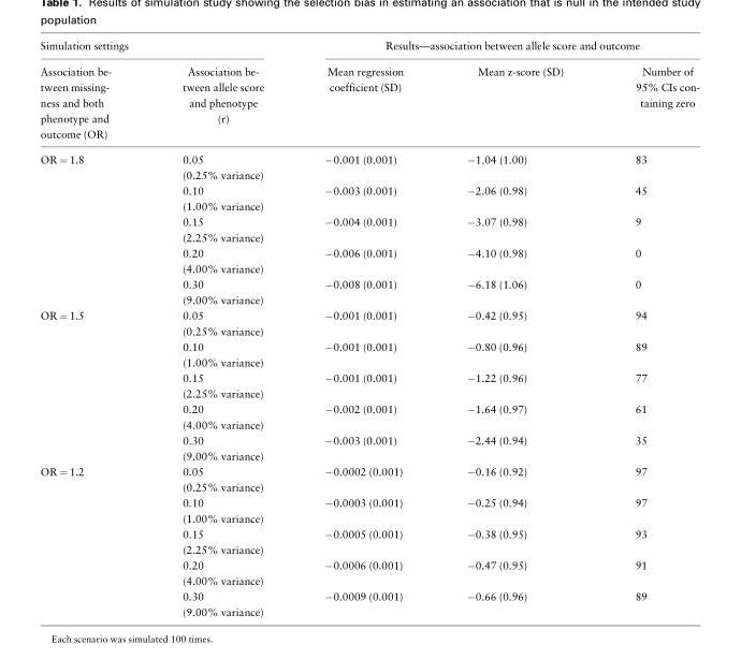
<table><thead><tr><td colspan="2">Simulation settings</td><td colspan="3">Results—association between allele score and outcome</td></tr><tr><td>Association be- tween missing- ness and both phenotype and outcome (OR)</td><td>Association be- tween allele score and phenotype (r)</td><td>Mean regression coefficient (SD)</td><td>Mean z-score (SD)</td><td>Number of 95% CIs con- taining zero</td></tr></thead><tbody><tr><td rowspan="10">OR = 1.8</td><td>0.05</td><td rowspan="2">−0.001 (0.001)</td><td rowspan="2">−1.04 (1.00)</td><td rowspan="2">83</td></tr><tr><td>(0.25% variance)</td></tr><tr><td>0.10</td><td rowspan="2">−0.003 (0.001)</td><td rowspan="2">−2.06 (0.98)</td><td rowspan="2">45</td></tr><tr><td>(1.00% variance)</td></tr><tr><td>0.15</td><td rowspan="2">−0.004 (0.001)</td><td rowspan="2">−3.07 (0.98)</td><td rowspan="2">9</td></tr><tr><td>(2.25% variance)</td></tr><tr><td>0.20</td><td rowspan="2">−0.006 (0.001)</td><td rowspan="2">−4.10 (0.98)</td><td rowspan="2">0</td></tr><tr><td>(4.00% variance)</td></tr><tr><td>0.30</td><td rowspan="2">−0.008 (0.001)</td><td rowspan="2">−6.18 (1.06)</td><td rowspan="2">0</td></tr><tr><td>(9.00% variance)</td></tr><tr><td rowspan="10">OR = 1.5</td><td>0.05</td><td rowspan="2">−0.001 (0.001)</td><td rowspan="2">−0.42 (0.95)</td><td rowspan="2">94</td></tr><tr><td>(0.25% variance)</td></tr><tr><td>0.10</td><td rowspan="2">−0.001 (0.001)</td><td rowspan="2">−0.80 (0.96)</td><td rowspan="2">89</td></tr><tr><td>(1.00% variance)</td></tr><tr><td>0.15</td><td rowspan="2">−0.001 (0.001)</td><td rowspan="2">−1.22 (0.96)</td><td rowspan="2">77</td></tr><tr><td>(2.25% variance)</td></tr><tr><td>0.20</td><td rowspan="2">−0.002 (0.001)</td><td rowspan="2">−1.64 (0.97)</td><td rowspan="2">61</td></tr><tr><td>(4.00% variance)</td></tr><tr><td>0.30</td><td rowspan="2">−0.003 (0.001)</td><td rowspan="2">−2.44 (0.94)</td><td rowspan="2">35</td></tr><tr><td>(9.00% variance)</td></tr><tr><td rowspan="10">OR = 1.2</td><td>0.05</td><td rowspan="2">−0.0002 (0.001)</td><td rowspan="2">−0.16 (0.92)</td><td rowspan="2">97</td></tr><tr><td>(0.25% variance)</td></tr><tr><td>0.10</td><td rowspan="2">−0.0003 (0.001)</td><td rowspan="2">−0.25 (0.94)</td><td rowspan="2">97</td></tr><tr><td>(1.00% variance)</td></tr><tr><td>0.15</td><td rowspan="2">−0.0005 (0.001)</td><td rowspan="2">−0.38 (0.95)</td><td rowspan="2">93</td></tr><tr><td>(2.25% variance)</td></tr><tr><td>0.20</td><td rowspan="2">−0.0006 (0.001)</td><td rowspan="2">−0.47 (0.95)</td><td rowspan="2">91</td></tr><tr><td>(4.00% variance)</td></tr><tr><td>0.30</td><td rowspan="2">−0.0009 (0.001)</td><td rowspan="2">−0.66 (0.96)</td><td rowspan="2">89</td></tr><tr><td>(9.00% variance)</td></tr></tbody></table>